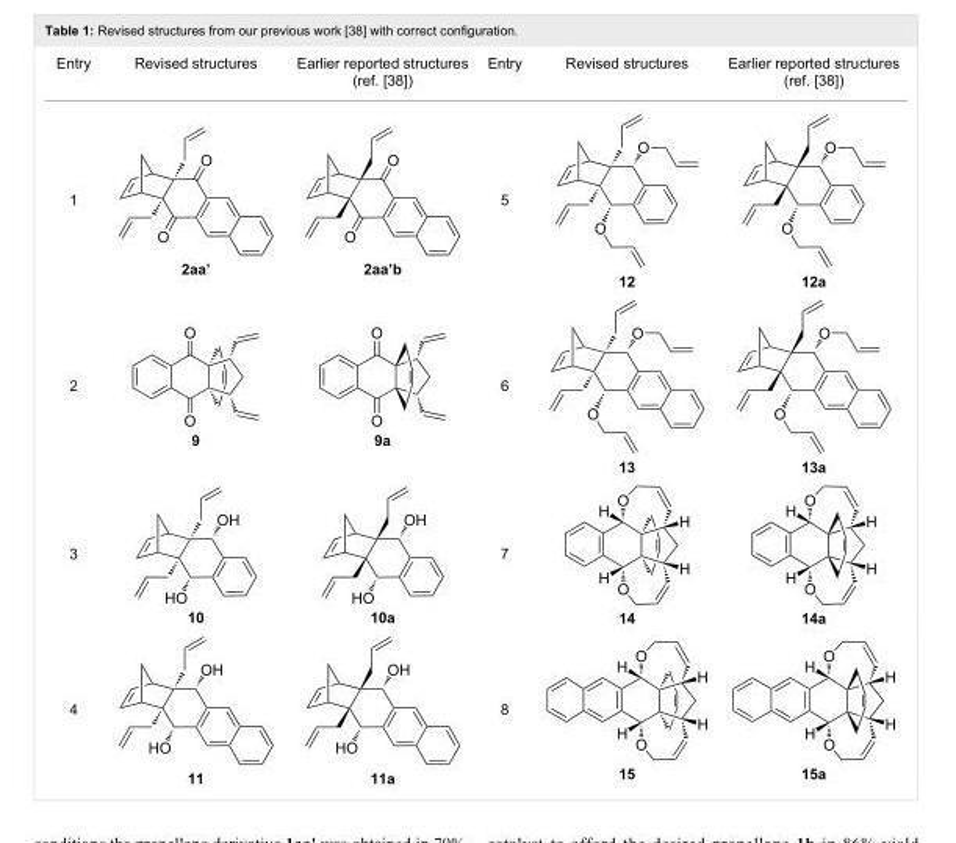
<table><tbody><tr><td>Entry</td><td>Revised structures</td><td>Earlier reported structures (ref. [38])</td><td>Entry</td><td>Revised structures</td><td>Earlier reported structures (ref. [38])</td></tr><tr><td>1</td><td>2aa’</td><td>2aa’b</td><td>5</td><td>12</td><td>12a</td></tr><tr><td>2</td><td>9</td><td>9a</td><td>6</td><td>13</td><td>13a</td></tr><tr><td>3</td><td>10</td><td>10a</td><td>7</td><td>14</td><td>14a</td></tr><tr><td>4</td><td>11</td><td>11a</td><td>8</td><td>15</td><td>15a</td></tr></tbody></table>